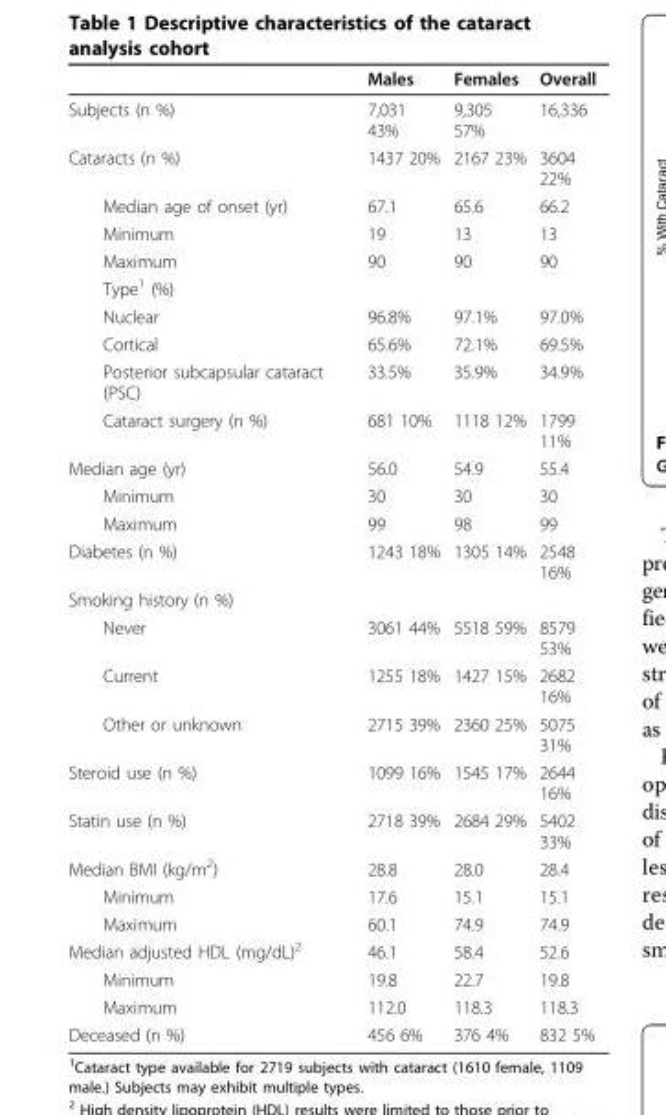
<table><thead><tr><td></td><td>Males</td><td>Females</td><td>Overall</td></tr></thead><tbody><tr><td>Subjects (n %)</td><td>7,031 43%</td><td>9,305 57%</td><td>16,336</td></tr><tr><td>Cataracts (n %)</td><td>1437 20%</td><td>2167 23%</td><td>3604 22%</td></tr><tr><td>Median age of onset (yr)</td><td>67.1</td><td>65.6</td><td>66.2</td></tr><tr><td>Minimum</td><td>19</td><td>13</td><td>13</td></tr><tr><td>Maximum</td><td>90</td><td>90</td><td>90</td></tr><tr><td colspan="4">Type<sup>1</sup> (%)</td></tr><tr><td>Nuclear</td><td>96.8%</td><td>97.1%</td><td>97.0%</td></tr><tr><td>Cortical</td><td>65.6%</td><td>72.1%</td><td>69.5%</td></tr><tr><td>Posterior subcapsular cataract (PSC)</td><td>33.5%</td><td>35.9%</td><td>34.9%</td></tr><tr><td>Cataract surgery (n %)</td><td>681 10%</td><td>1118 12%</td><td>1799 11%</td></tr><tr><td>Median age (yr)</td><td>56.0</td><td>54.9</td><td>55.4</td></tr><tr><td>Minimum</td><td>30</td><td>30</td><td>30</td></tr><tr><td>Maximum</td><td>99</td><td>98</td><td>99</td></tr><tr><td>Diabetes (n %)</td><td>1243 18%</td><td>1305 14%</td><td>2548 16%</td></tr><tr><td colspan="4">Smoking history (n %)</td></tr><tr><td>Never</td><td>3061 44%</td><td>5518 59%</td><td>8579 53%</td></tr><tr><td>Current</td><td>1255 18%</td><td>1427 15%</td><td>2682 16%</td></tr><tr><td>Other or unknown</td><td>2715 39%</td><td>2360 25%</td><td>5075 31%</td></tr><tr><td>Steroid use (n %)</td><td>1099 16%</td><td>1545 17%</td><td>2644 16%</td></tr><tr><td>Statin use (n %)</td><td>2718 39%</td><td>2684 29%</td><td>5402 33%</td></tr><tr><td>Median BMI (kg/m<sup>2</sup>)</td><td>28.8</td><td>28.0</td><td>28.4</td></tr><tr><td>Minimum</td><td>17.6</td><td>15.1</td><td>15.1</td></tr><tr><td>Maximum</td><td>60.1</td><td>74.9</td><td>74.9</td></tr><tr><td>Median adjusted HDL (mg/dL)<sup>2</sup></td><td>46.1</td><td>58.4</td><td>52.6</td></tr><tr><td>Minimum</td><td>19.8</td><td>22.7</td><td>19.8</td></tr><tr><td>Maximum</td><td>112.0</td><td>118.3</td><td>118.3</td></tr><tr><td>Deceased (n %)</td><td>456 6%</td><td>376 4%</td><td>832 5%</td></tr></tbody></table>